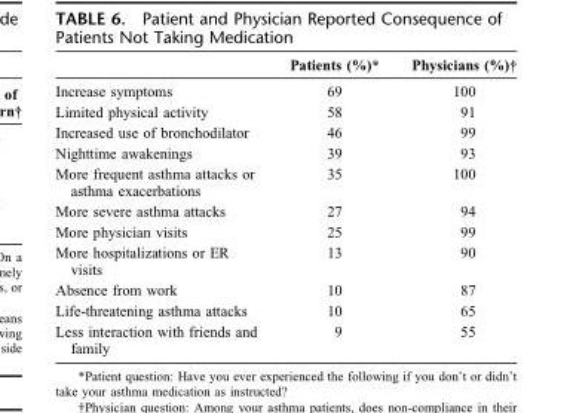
<table><thead><tr><td></td><td>Patients (%)*</td><td>Physicians (%)†</td></tr></thead><tbody><tr><td>Increase symptoms</td><td>69</td><td>100</td></tr><tr><td>Limited physical activity</td><td>58</td><td>91</td></tr><tr><td>Increased use of bronchodilator</td><td>46</td><td>99</td></tr><tr><td>Nighttime awakenings</td><td>39</td><td>93</td></tr><tr><td>More frequent asthma attacks or asthma exacerbations</td><td>35</td><td>100</td></tr><tr><td>More severe asthma attacks</td><td>27</td><td>94</td></tr><tr><td>More physician visits</td><td>25</td><td>99</td></tr><tr><td>More hospitalizations or ER visits</td><td>13</td><td>90</td></tr><tr><td>Absence from work</td><td>10</td><td>87</td></tr><tr><td>Life-threatening asthma attacks</td><td>10</td><td>65</td></tr><tr><td>Less interaction with friends and family</td><td>9</td><td>55</td></tr></tbody></table>